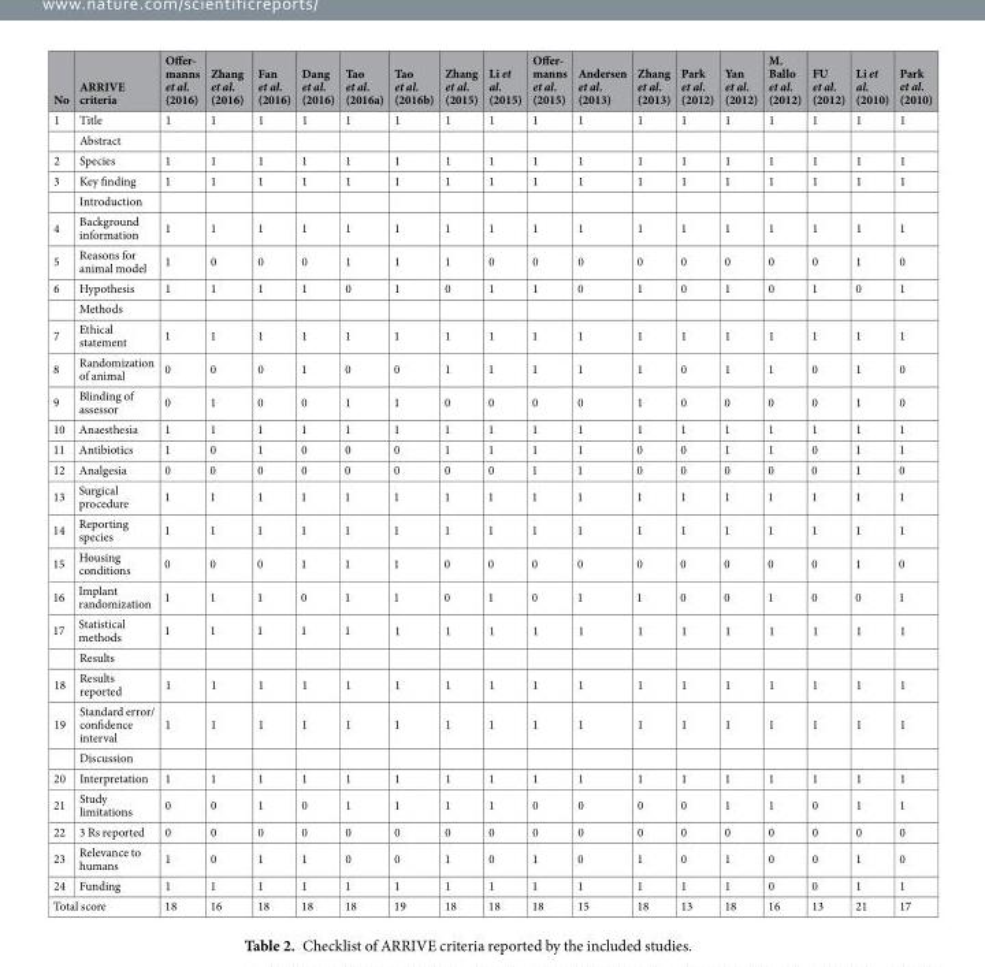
<table><thead><tr><td>No</td><td>ARRIVE criteria</td><td>Offer- manns et al. (2016)</td><td>Zhang et al. (2016)</td><td>Fan et al. (2016)</td><td>Dang et al. (2016)</td><td>Tao et al. (2016a)</td><td>Tao et al. (2016b)</td><td>Zhang et al. (2015)</td><td>Li et al. (2015)</td><td>Offer- manns et al. (2015)</td><td>Andersen et al. (2013)</td><td>Zhang et al. (2013)</td><td>Park et al. (2012)</td><td>Yan et al. (2012)</td><td>M. Ballo et al. (2012)</td><td>FU et al. (2012)</td><td>Li et al. (2010)</td><td>Park et al. (2010)</td></tr></thead><tbody><tr><td rowspan="2">1</td><td>Title</td><td>1</td><td>1</td><td>1</td><td>1</td><td>1</td><td>1</td><td>1</td><td>1</td><td>1</td><td>1</td><td>1</td><td>1</td><td>1</td><td>1</td><td>1</td><td>1</td><td>1</td></tr><tr><td>Abstract</td><td></td><td></td><td></td><td></td><td></td><td></td><td></td><td></td><td></td><td></td><td></td><td></td><td></td><td></td><td></td><td></td><td></td></tr><tr><td>2</td><td>Species</td><td>1</td><td>1</td><td>1</td><td>1</td><td>1</td><td>1</td><td>1</td><td>1</td><td>1</td><td>1</td><td>1</td><td>1</td><td>1</td><td>1</td><td>1</td><td>1</td><td>1</td></tr><tr><td rowspan="2">3</td><td>Key finding</td><td>1</td><td>1</td><td>1</td><td>1</td><td>1</td><td>1</td><td>1</td><td>1</td><td>1</td><td>1</td><td>1</td><td>1</td><td>1</td><td>1</td><td>1</td><td>1</td><td>1</td></tr><tr><td>Introduction</td><td></td><td></td><td></td><td></td><td></td><td></td><td></td><td></td><td></td><td></td><td></td><td></td><td></td><td></td><td></td><td></td><td></td></tr><tr><td>4</td><td>Background information</td><td>1</td><td>1</td><td>1</td><td>1</td><td>1</td><td>1</td><td>1</td><td>1</td><td>1</td><td>1</td><td>1</td><td>1</td><td>1</td><td>1</td><td>1</td><td>1</td><td>1</td></tr><tr><td>5</td><td>Reasons for animal model</td><td>1</td><td>0</td><td>0</td><td>0</td><td>1</td><td>1</td><td>1</td><td>0</td><td>0</td><td>0</td><td>0</td><td>0</td><td>0</td><td>0</td><td>0</td><td>1</td><td>0</td></tr><tr><td rowspan="2">6</td><td>Hypothesis</td><td>1</td><td>1</td><td>1</td><td>1</td><td>0</td><td>1</td><td>0</td><td>1</td><td>1</td><td>0</td><td>1</td><td>0</td><td>1</td><td>0</td><td>1</td><td>0</td><td>1</td></tr><tr><td>Methods</td><td></td><td></td><td></td><td></td><td></td><td></td><td></td><td></td><td></td><td></td><td></td><td></td><td></td><td></td><td></td><td></td><td></td></tr><tr><td>7</td><td>Ethical statement</td><td>1</td><td>1</td><td>1</td><td>1</td><td>1</td><td>1</td><td>1</td><td>1</td><td>1</td><td>1</td><td>1</td><td>1</td><td>1</td><td>1</td><td>1</td><td>1</td><td>1</td></tr><tr><td>8</td><td>Randomization of animal</td><td>0</td><td>0</td><td>0</td><td>1</td><td>0</td><td>0</td><td>1</td><td>1</td><td>1</td><td>1</td><td>1</td><td>0</td><td>1</td><td>1</td><td>0</td><td>1</td><td>0</td></tr><tr><td>9</td><td>Blinding of assessor</td><td>0</td><td>1</td><td>0</td><td>0</td><td>1</td><td>1</td><td>0</td><td>0</td><td>0</td><td>0</td><td>1</td><td>0</td><td>0</td><td>0</td><td>0</td><td>1</td><td>0</td></tr><tr><td>10</td><td>Anaesthesia</td><td>1</td><td>1</td><td>1</td><td>1</td><td>1</td><td>1</td><td>1</td><td>1</td><td>1</td><td>1</td><td>1</td><td>1</td><td>1</td><td>1</td><td>1</td><td>1</td><td>1</td></tr><tr><td>11</td><td>Antibiotics</td><td>1</td><td>0</td><td>1</td><td>0</td><td>0</td><td>0</td><td>1</td><td>1</td><td>1</td><td>1</td><td>0</td><td>0</td><td>1</td><td>1</td><td>0</td><td>1</td><td>1</td></tr><tr><td>12</td><td>Analgesia</td><td>0</td><td>0</td><td>0</td><td>0</td><td>0</td><td>0</td><td>0</td><td>0</td><td>1</td><td>1</td><td>0</td><td>0</td><td>0</td><td>0</td><td>0</td><td>1</td><td>0</td></tr><tr><td>13</td><td>Surgical procedure</td><td>1</td><td>1</td><td>1</td><td>1</td><td>1</td><td>1</td><td>1</td><td>1</td><td>1</td><td>1</td><td>1</td><td>1</td><td>1</td><td>1</td><td>1</td><td>1</td><td>1</td></tr><tr><td>14</td><td>Reporting species</td><td>1</td><td>1</td><td>1</td><td>1</td><td>1</td><td>1</td><td>1</td><td>1</td><td>1</td><td>1</td><td>1</td><td>1</td><td>1</td><td>1</td><td>1</td><td>1</td><td>1</td></tr><tr><td>15</td><td>Housing conditions</td><td>0</td><td>0</td><td>0</td><td>1</td><td>1</td><td>1</td><td>0</td><td>0</td><td>0</td><td>0</td><td>0</td><td>0</td><td>0</td><td>0</td><td>0</td><td>1</td><td>0</td></tr><tr><td>16</td><td>Implant randomization</td><td>1</td><td>1</td><td>1</td><td>0</td><td>1</td><td>1</td><td>0</td><td>1</td><td>0</td><td>1</td><td>1</td><td>0</td><td>0</td><td>1</td><td>0</td><td>0</td><td>1</td></tr><tr><td rowspan="2">17</td><td>Statistical methods</td><td>1</td><td>1</td><td>1</td><td>1</td><td>1</td><td>1</td><td>1</td><td>1</td><td>1</td><td>1</td><td>1</td><td>1</td><td>1</td><td>1</td><td>1</td><td>1</td><td>1</td></tr><tr><td>Results</td><td></td><td></td><td></td><td></td><td></td><td></td><td></td><td></td><td></td><td></td><td></td><td></td><td></td><td></td><td></td><td></td><td></td></tr><tr><td>18</td><td>Results reported</td><td>1</td><td>1</td><td>1</td><td>1</td><td>1</td><td>1</td><td>1</td><td>1</td><td>1</td><td>1</td><td>1</td><td>1</td><td>1</td><td>1</td><td>1</td><td>1</td><td>1</td></tr><tr><td rowspan="2">19</td><td>Standard error/ confidence interval</td><td>1</td><td>1</td><td>1</td><td>1</td><td>1</td><td>1</td><td>1</td><td>1</td><td>1</td><td>1</td><td>1</td><td>1</td><td>1</td><td>1</td><td>1</td><td>1</td><td>1</td></tr><tr><td>Discussion</td><td></td><td></td><td></td><td></td><td></td><td></td><td></td><td></td><td></td><td></td><td></td><td></td><td></td><td></td><td></td><td></td><td></td></tr><tr><td>20</td><td>Interpretation</td><td>1</td><td>1</td><td>1</td><td>1</td><td>1</td><td>1</td><td>1</td><td>1</td><td>1</td><td>1</td><td>1</td><td>1</td><td>1</td><td>1</td><td>1</td><td>1</td><td>1</td></tr><tr><td>21</td><td>Study limitations</td><td>0</td><td>0</td><td>1</td><td>0</td><td>1</td><td>1</td><td>1</td><td>1</td><td>0</td><td>0</td><td>0</td><td>0</td><td>1</td><td>1</td><td>0</td><td>1</td><td>1</td></tr><tr><td>22</td><td>3 Rs reported</td><td>0</td><td>0</td><td>0</td><td>0</td><td>0</td><td>0</td><td>0</td><td>0</td><td>0</td><td>0</td><td>0</td><td>0</td><td>0</td><td>0</td><td>0</td><td>0</td><td>0</td></tr><tr><td>23</td><td>Relevance to humans</td><td>1</td><td>0</td><td>1</td><td>1</td><td>0</td><td>0</td><td>1</td><td>0</td><td>1</td><td>0</td><td>1</td><td>0</td><td>1</td><td>0</td><td>0</td><td>1</td><td>0</td></tr><tr><td>24</td><td>Funding</td><td>1</td><td>1</td><td>1</td><td>1</td><td>1</td><td>1</td><td>1</td><td>1</td><td>1</td><td>1</td><td>1</td><td>1</td><td>1</td><td>0</td><td>0</td><td>1</td><td>1</td></tr><tr><td colspan="2">Total score</td><td>18</td><td>16</td><td>18</td><td>18</td><td>18</td><td>19</td><td>18</td><td>18</td><td>18</td><td>15</td><td>18</td><td>13</td><td>18</td><td>16</td><td>13</td><td>21</td><td>17</td></tr></tbody></table>